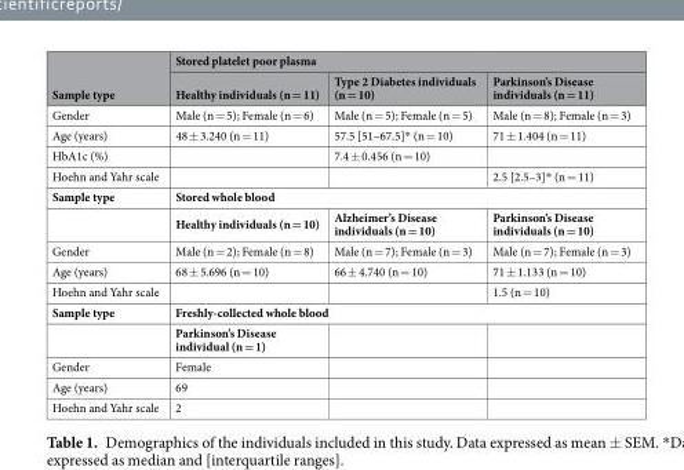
<table><thead><tr><td rowspan="2">Sample type</td><td colspan="3">Stored platelet poor plasma</td></tr><tr><td>Healthy individuals (n = 11)</td><td>Type 2 Diabetes individuals (n = 10)</td><td>Parkinson’s Disease individuals (n = 11)</td></tr></thead><tbody><tr><td>Gender</td><td>Male (n = 5); Female (n = 6)</td><td>Male (n = 5); Female (n = 5)</td><td>Male (n = 8); Female (n = 3)</td></tr><tr><td>Age (years)</td><td>48 ± 3.240 (n = 11)</td><td>57.5 [51–67.5]* (n = 10)</td><td>71 ± 1.404 (n = 11)</td></tr><tr><td>HbA1c (%)</td><td></td><td>7.4 ± 0.456 (n = 10)</td><td></td></tr><tr><td>Hoehn and Yahr scale</td><td></td><td></td><td>2.5 [2.5–3]* (n = 11)</td></tr><tr><td rowspan="2">Sample type</td><td colspan="3">Stored whole blood</td></tr><tr><td>Healthy individuals (n = 10)</td><td>Alzheimer’s Disease individuals (n = 10)</td><td>Parkinson’s Disease individuals (n = 10)</td></tr><tr><td>Gender</td><td>Male (n = 2); Female (n = 8)</td><td>Male (n = 7); Female (n = 3)</td><td>Male (n = 7); Female (n = 3)</td></tr><tr><td>Age (years)</td><td>68 ± 5.696 (n = 10)</td><td>66 ± 4.740 (n = 10)</td><td>71 ± 1.133 (n = 10)</td></tr><tr><td>Hoehn and Yahr scale</td><td></td><td></td><td>1.5 (n = 10)</td></tr><tr><td rowspan="2">Sample type</td><td colspan="3">Freshly-collected whole blood</td></tr><tr><td>Parkinson’s Disease individual (n = 1)</td><td></td><td></td></tr><tr><td>Gender</td><td>Female</td><td></td><td></td></tr><tr><td>Age (years)</td><td>69</td><td></td><td></td></tr><tr><td>Hoehn and Yahr scale</td><td>2</td><td></td><td></td></tr></tbody></table>